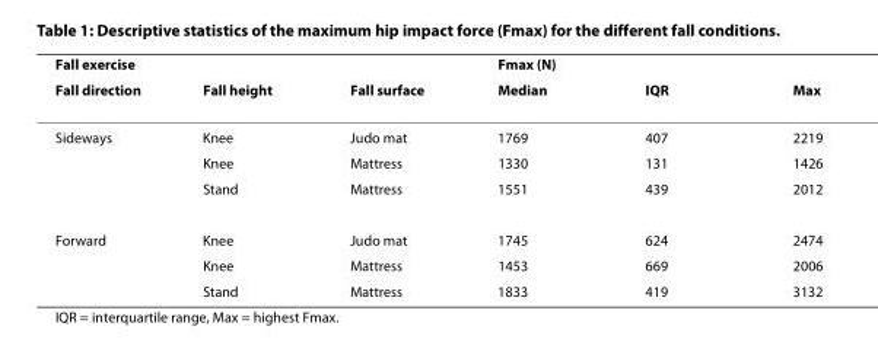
<table><thead><tr><td rowspan="2">Fall exercise Fall direction</td><td rowspan="2">Fall height</td><td rowspan="2">Fall surface</td><td colspan="3">Fmax (N)</td></tr><tr><td>Median</td><td>IQR</td><td>Max</td></tr></thead><tbody><tr><td rowspan="3">Sideways</td><td>Knee</td><td>Judo mat</td><td>1769</td><td>407</td><td>2219</td></tr><tr><td>Knee</td><td>Mattress</td><td>1330</td><td>131</td><td>1426</td></tr><tr><td>Stand</td><td>Mattress</td><td>1551</td><td>439</td><td>2012</td></tr><tr><td rowspan="3">Forward</td><td>Knee</td><td>Judo mat</td><td>1745</td><td>624</td><td>2474</td></tr><tr><td>Knee</td><td>Mattress</td><td>1453</td><td>669</td><td>2006</td></tr><tr><td>Stand</td><td>Mattress</td><td>1833</td><td>419</td><td>3132</td></tr></tbody></table>